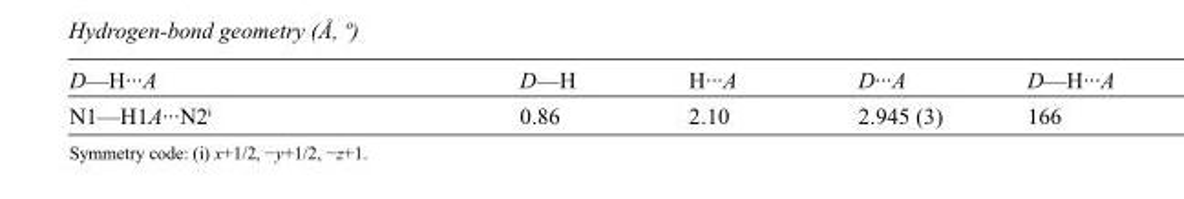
<table><tbody><tr><td>D—H···A</td><td>D—H</td><td>H···A</td><td>D···A</td><td>D—H···A</td></tr><tr><td>N1—H1A···N2<sup>i</sup></td><td>0.86</td><td>2.10</td><td>2.945 (3)</td><td>166</td></tr></tbody></table>